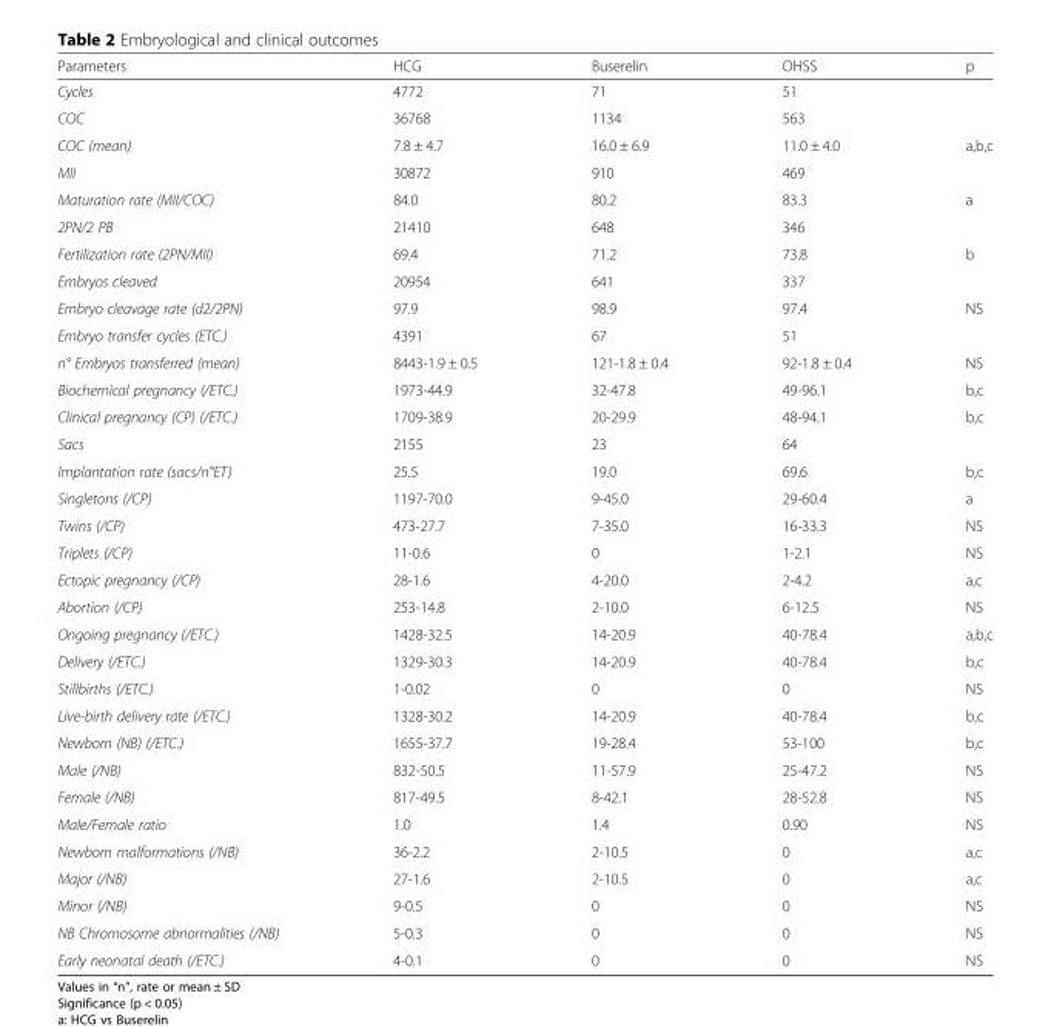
<table><thead><tr><td>Parameters</td><td>HCG</td><td>Buserelin</td><td>OHSS</td><td>p</td></tr></thead><tbody><tr><td>Cycles</td><td>4772</td><td>71</td><td>51</td><td></td></tr><tr><td>COC</td><td>36768</td><td>1134</td><td>563</td><td></td></tr><tr><td>COC (mean)</td><td>7.8 ± 4.7</td><td>16.0 ± 6.9</td><td>11.0 ± 4.0</td><td>a,b,c</td></tr><tr><td>MII</td><td>30872</td><td>910</td><td>469</td><td></td></tr><tr><td>Maturation rate (MII/COC)</td><td>84.0</td><td>80.2</td><td>83.3</td><td>a</td></tr><tr><td>2PN/2 PB</td><td>21410</td><td>648</td><td>346</td><td></td></tr><tr><td>Fertilization rate (2PN/MII)</td><td>69.4</td><td>71.2</td><td>73.8</td><td>b</td></tr><tr><td>Embryos cleaved</td><td>20954</td><td>641</td><td>337</td><td></td></tr><tr><td>Embryo cleavage rate (d2/2PN)</td><td>97.9</td><td>98.9</td><td>97.4</td><td>NS</td></tr><tr><td>Embryo transfer cycles (ETC.)</td><td>4391</td><td>67</td><td>51</td><td></td></tr><tr><td>n° Embryos transferred (mean)</td><td>8443-1.9 ± 0.5</td><td>121-1.8 ± 0.4</td><td>92-1.8 ± 0.4</td><td>NS</td></tr><tr><td>Biochemical pregnancy (/ETC.)</td><td>1973-44.9</td><td>32-47.8</td><td>49-96.1</td><td>b,c</td></tr><tr><td>Clinical pregnancy (CP) (/ETC.)</td><td>1709-38.9</td><td>20-29.9</td><td>48-94.1</td><td>b,c</td></tr><tr><td>Sacs</td><td>2155</td><td>23</td><td>64</td><td></td></tr><tr><td>Implantation rate (sacs/n°ET)</td><td>25.5</td><td>19.0</td><td>69.6</td><td>b,c</td></tr><tr><td>Singletons (/CP)</td><td>1197-70.0</td><td>9-45.0</td><td>29-60.4</td><td>a</td></tr><tr><td>Twins (/CP)</td><td>473-27.7</td><td>7-35.0</td><td>16-33.3</td><td>NS</td></tr><tr><td>Triplets (/CP)</td><td>11-0.6</td><td>0</td><td>1-2.1</td><td>NS</td></tr><tr><td>Ectopic pregnancy (/CP)</td><td>28-1.6</td><td>4-20.0</td><td>2-4.2</td><td>a,c</td></tr><tr><td>Abortion (/CP)</td><td>253-14.8</td><td>2-10.0</td><td>6-12.5</td><td>NS</td></tr><tr><td>Ongoing pregnancy (/ETC.)</td><td>1428-32.5</td><td>14-20.9</td><td>40-78.4</td><td>a,b,c</td></tr><tr><td>Delivery (/ETC.)</td><td>1329-30.3</td><td>14-20.9</td><td>40-78.4</td><td>b,c</td></tr><tr><td>Stillbirths (/ETC.)</td><td>1-0.02</td><td>0</td><td>0</td><td>NS</td></tr><tr><td>Live-birth delivery rate (/ETC.)</td><td>1328-30.2</td><td>14-20.9</td><td>40-78.4</td><td>b,c</td></tr><tr><td>Newborn (NB) (/ETC.)</td><td>1655-37.7</td><td>19-28.4</td><td>53-100</td><td>b,c</td></tr><tr><td>Male (/NB)</td><td>832-50.5</td><td>11-57.9</td><td>25-47.2</td><td>NS</td></tr><tr><td>Female (/NB)</td><td>817-49.5</td><td>8-42.1</td><td>28-52.8</td><td>NS</td></tr><tr><td>Male/Female ratio</td><td>1.0</td><td>1.4</td><td>0.90</td><td>NS</td></tr><tr><td>Newborn malformations (/NB)</td><td>36-2.2</td><td>2-10.5</td><td>0</td><td>a,c</td></tr><tr><td>Major (/NB)</td><td>27-1.6</td><td>2-10.5</td><td>0</td><td>a,c</td></tr><tr><td>Minor (/NB)</td><td>9-0.5</td><td>0</td><td>0</td><td>NS</td></tr><tr><td>NB Chromosome abnormalities (/NB)</td><td>5-0.3</td><td>0</td><td>0</td><td>NS</td></tr><tr><td>Early neonatal death (/ETC.)</td><td>4-0.1</td><td>0</td><td>0</td><td>NS</td></tr></tbody></table>